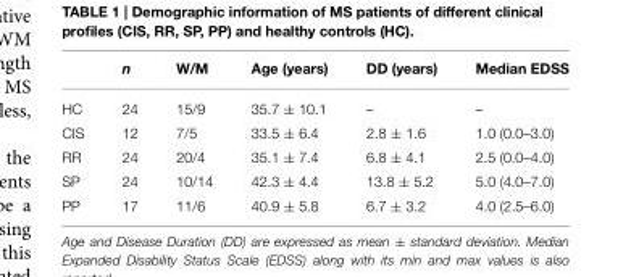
<table><thead><tr><td></td><td>n</td><td>W/M</td><td>Age (years)</td><td>DD (years)</td><td>Median EDSS</td></tr></thead><tbody><tr><td>HC</td><td>24</td><td>15/9</td><td>35.7 ± 10.1</td><td>–</td><td>–</td></tr><tr><td>CIS</td><td>12</td><td>7/5</td><td>33.5 ± 6.4</td><td>2.8 ± 1.6</td><td>1.0 (0.0–3.0)</td></tr><tr><td>RR</td><td>24</td><td>20/4</td><td>35.1 ± 7.4</td><td>6.8 ± 4.1</td><td>2.5 (0.0–4.0)</td></tr><tr><td>SP</td><td>24</td><td>10/14</td><td>42.3 ± 4.4</td><td>13.8 ± 5.2</td><td>5.0 (4.0–7.0)</td></tr><tr><td>PP</td><td>17</td><td>11/6</td><td>40.9 ± 5.8</td><td>6.7 ± 3.2</td><td>4.0 (2.5–6.0)</td></tr></tbody></table>